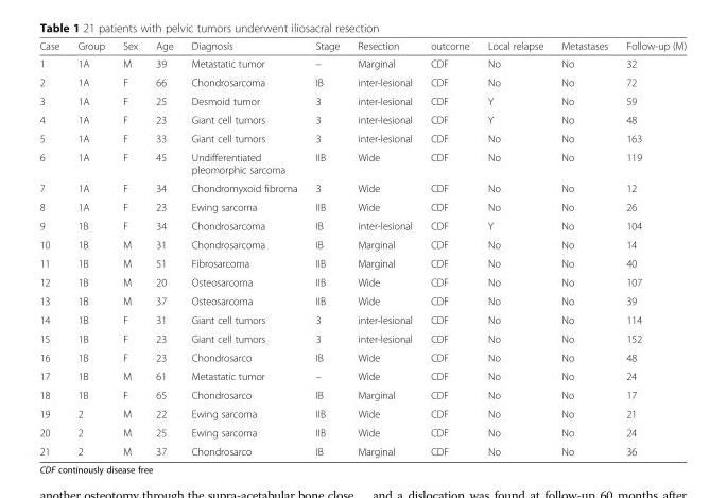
<table><thead><tr><td>Case</td><td>Group</td><td>Sex</td><td>Age</td><td>Diagnosis</td><td>Stage</td><td>Resection</td><td>outcome</td><td>Local relapse</td><td>Metastases</td><td>Follow-up (M)</td></tr></thead><tbody><tr><td>1</td><td>1A</td><td>M</td><td>39</td><td>Metastatic tumor</td><td>–</td><td>Marginal</td><td>CDF</td><td>No</td><td>No</td><td>32</td></tr><tr><td>2</td><td>1A</td><td>F</td><td>66</td><td>Chondrosarcoma</td><td>IB</td><td>inter-lesional</td><td>CDF</td><td>No</td><td>No</td><td>72</td></tr><tr><td>3</td><td>1A</td><td>F</td><td>25</td><td>Desmoid tumor</td><td>3</td><td>inter-lesional</td><td>CDF</td><td>Y</td><td>No</td><td>59</td></tr><tr><td>4</td><td>1A</td><td>F</td><td>23</td><td>Giant cell tumors</td><td>3</td><td>inter-lesional</td><td>CDF</td><td>Y</td><td>No</td><td>48</td></tr><tr><td>5</td><td>1A</td><td>F</td><td>33</td><td>Giant cell tumors</td><td>3</td><td>inter-lesional</td><td>CDF</td><td>No</td><td>No</td><td>163</td></tr><tr><td>6</td><td>1A</td><td>F</td><td>45</td><td>Undifferentiated pleomorphic sarcoma</td><td>IIB</td><td>Wide</td><td>CDF</td><td>No</td><td>No</td><td>119</td></tr><tr><td>7</td><td>1A</td><td>F</td><td>34</td><td>Chondromyxoid fibroma</td><td>3</td><td>Wide</td><td>CDF</td><td>No</td><td>No</td><td>12</td></tr><tr><td>8</td><td>1A</td><td>F</td><td>23</td><td>Ewing sarcoma</td><td>IIB</td><td>Wide</td><td>CDF</td><td>No</td><td>No</td><td>26</td></tr><tr><td>9</td><td>1B</td><td>F</td><td>34</td><td>Chondrosarcoma</td><td>IB</td><td>inter-lesional</td><td>CDF</td><td>Y</td><td>No</td><td>104</td></tr><tr><td>10</td><td>1B</td><td>M</td><td>31</td><td>Chondrosarcoma</td><td>IB</td><td>Marginal</td><td>CDF</td><td>No</td><td>No</td><td>14</td></tr><tr><td>11</td><td>1B</td><td>M</td><td>51</td><td>Fibrosarcoma</td><td>IIB</td><td>Marginal</td><td>CDF</td><td>No</td><td>No</td><td>40</td></tr><tr><td>12</td><td>1B</td><td>M</td><td>20</td><td>Osteosarcoma</td><td>IIB</td><td>Wide</td><td>CDF</td><td>No</td><td>No</td><td>107</td></tr><tr><td>13</td><td>1B</td><td>M</td><td>37</td><td>Osteosarcoma</td><td>IIB</td><td>Wide</td><td>CDF</td><td>No</td><td>No</td><td>39</td></tr><tr><td>14</td><td>1B</td><td>F</td><td>31</td><td>Giant cell tumors</td><td>3</td><td>inter-lesional</td><td>CDF</td><td>No</td><td>No</td><td>114</td></tr><tr><td>15</td><td>1B</td><td>F</td><td>23</td><td>Giant cell tumors</td><td>3</td><td>inter-lesional</td><td>CDF</td><td>No</td><td>No</td><td>152</td></tr><tr><td>16</td><td>1B</td><td>F</td><td>23</td><td>Chondrosarco</td><td>IB</td><td>Wide</td><td>CDF</td><td>No</td><td>No</td><td>48</td></tr><tr><td>17</td><td>1B</td><td>M</td><td>61</td><td>Metastatic tumor</td><td>–</td><td>Wide</td><td>CDF</td><td>No</td><td>No</td><td>24</td></tr><tr><td>18</td><td>1B</td><td>F</td><td>65</td><td>Chondrosarco</td><td>IB</td><td>Marginal</td><td>CDF</td><td>No</td><td>No</td><td>17</td></tr><tr><td>19</td><td>2</td><td>M</td><td>22</td><td>Ewing sarcoma</td><td>IIB</td><td>Wide</td><td>CDF</td><td>No</td><td>No</td><td>21</td></tr><tr><td>20</td><td>2</td><td>M</td><td>25</td><td>Ewing sarcoma</td><td>IIB</td><td>Wide</td><td>CDF</td><td>No</td><td>No</td><td>24</td></tr><tr><td>21</td><td>2</td><td>M</td><td>37</td><td>Chondrosarco</td><td>IB</td><td>Marginal</td><td>CDF</td><td>No</td><td>No</td><td>36</td></tr></tbody></table>